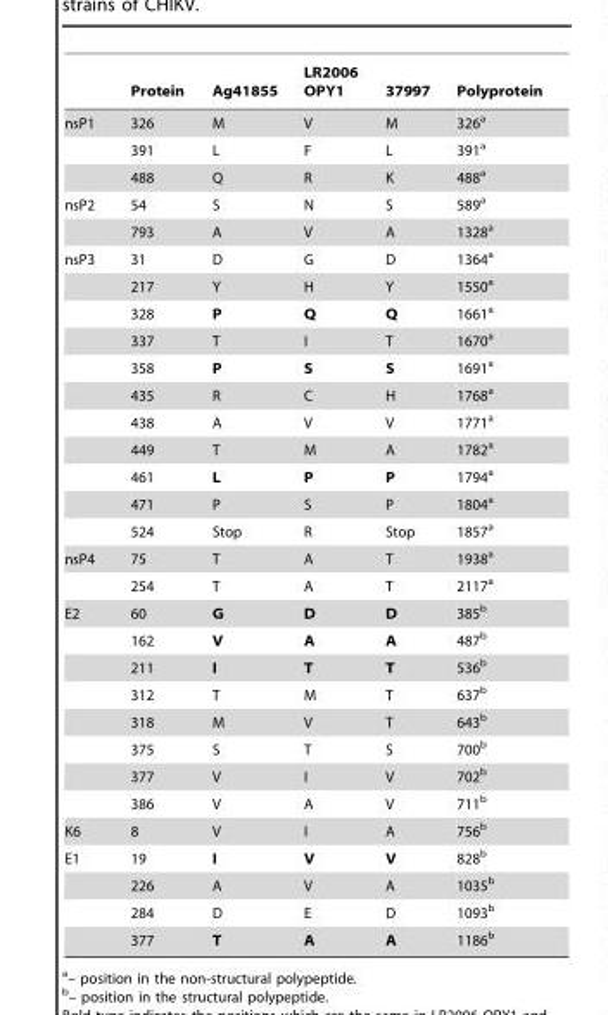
<table><thead><tr><td></td><td>Protein</td><td>Ag41855</td><td>LR2006 OPY1</td><td>37997</td><td>Polyprotein</td></tr></thead><tbody><tr><td rowspan="3">nsP1</td><td>326</td><td>M</td><td>V</td><td>M</td><td>326<sup>a</sup></td></tr><tr><td>391</td><td>L</td><td>F</td><td>L</td><td>391<sup>a</sup></td></tr><tr><td>488</td><td>Q</td><td>R</td><td>K</td><td>488<sup>a</sup></td></tr><tr><td rowspan="2">nsP2</td><td>54</td><td>S</td><td>N</td><td>S</td><td>589<sup>a</sup></td></tr><tr><td>793</td><td>A</td><td>V</td><td>A</td><td>1328<sup>a</sup></td></tr><tr><td rowspan="11">nsP3</td><td>31</td><td>D</td><td>G</td><td>D</td><td>1364<sup>a</sup></td></tr><tr><td>217</td><td>Y</td><td>H</td><td>Y</td><td>1550<sup>a</sup></td></tr><tr><td>328</td><td>P</td><td>Q</td><td>Q</td><td>1661<sup>a</sup></td></tr><tr><td>337</td><td>T</td><td>I</td><td>T</td><td>1670<sup>a</sup></td></tr><tr><td>358</td><td>P</td><td>S</td><td>S</td><td>1691<sup>a</sup></td></tr><tr><td>435</td><td>R</td><td>C</td><td>H</td><td>1768<sup>a</sup></td></tr><tr><td>438</td><td>A</td><td>V</td><td>V</td><td>1771<sup>a</sup></td></tr><tr><td>449</td><td>T</td><td>M</td><td>A</td><td>1782<sup>a</sup></td></tr><tr><td>461</td><td>L</td><td>P</td><td>P</td><td>1794<sup>a</sup></td></tr><tr><td>471</td><td>P</td><td>S</td><td>P</td><td>1804<sup>a</sup></td></tr><tr><td>524</td><td>Stop</td><td>R</td><td>Stop</td><td>1857<sup>a</sup></td></tr><tr><td rowspan="2">nsP4</td><td>75</td><td>T</td><td>A</td><td>T</td><td>1938<sup>a</sup></td></tr><tr><td>254</td><td>T</td><td>A</td><td>T</td><td>2117<sup>a</sup></td></tr><tr><td rowspan="8">E2</td><td>60</td><td>G</td><td>D</td><td>D</td><td>385<sup>b</sup></td></tr><tr><td>162</td><td>V</td><td>A</td><td>A</td><td>487<sup>b</sup></td></tr><tr><td>211</td><td>I</td><td>T</td><td>T</td><td>536<sup>b</sup></td></tr><tr><td>312</td><td>T</td><td>M</td><td>T</td><td>637<sup>b</sup></td></tr><tr><td>318</td><td>M</td><td>V</td><td>T</td><td>643<sup>b</sup></td></tr><tr><td>375</td><td>S</td><td>T</td><td>S</td><td>700<sup>b</sup></td></tr><tr><td>377</td><td>V</td><td>I</td><td>V</td><td>702<sup>b</sup></td></tr><tr><td>386</td><td>V</td><td>A</td><td>V</td><td>711<sup>b</sup></td></tr><tr><td>K6</td><td>8</td><td>V</td><td>I</td><td>A</td><td>756<sup>b</sup></td></tr><tr><td rowspan="4">E1</td><td>19</td><td>I</td><td>V</td><td>V</td><td>828<sup>b</sup></td></tr><tr><td>226</td><td>A</td><td>V</td><td>A</td><td>1035<sup>b</sup></td></tr><tr><td>284</td><td>D</td><td>E</td><td>D</td><td>1093<sup>b</sup></td></tr><tr><td>377</td><td>T</td><td>A</td><td>A</td><td>1186<sup>b</sup></td></tr></tbody></table>